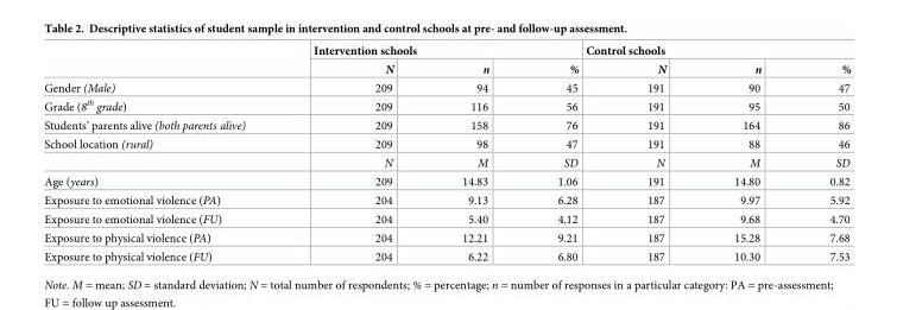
<table><thead><tr><td rowspan="2"></td><td colspan="3">Intervention schools</td><td colspan="3">Control schools</td></tr><tr><td>N</td><td>n</td><td>%</td><td>N</td><td>n</td><td>%</td></tr></thead><tbody><tr><td>Gender (Male)</td><td>209</td><td>94</td><td>45</td><td>191</td><td>90</td><td>47</td></tr><tr><td>Grade (8<sup>th</sup> grade)</td><td>209</td><td>116</td><td>56</td><td>191</td><td>95</td><td>50</td></tr><tr><td>Students’ parents alive (both parents alive)</td><td>209</td><td>158</td><td>76</td><td>191</td><td>164</td><td>86</td></tr><tr><td rowspan="2">School location (rural)</td><td>209</td><td>98</td><td>47</td><td>191</td><td>88</td><td>46</td></tr><tr><td>N</td><td>M</td><td>SD</td><td>N</td><td>M</td><td>SD</td></tr><tr><td>Age (years)</td><td>209</td><td>14.83</td><td>1.06</td><td>191</td><td>14.80</td><td>0.82</td></tr><tr><td>Exposure to emotional violence (PA)</td><td>204</td><td>9.13</td><td>6.28</td><td>187</td><td>9.97</td><td>5.92</td></tr><tr><td>Exposure to emotional violence (FU)</td><td>204</td><td>5.40</td><td>4.12</td><td>187</td><td>9.68</td><td>4.70</td></tr><tr><td>Exposure to physical violence (PA)</td><td>204</td><td>12.21</td><td>9.21</td><td>187</td><td>15.28</td><td>7.68</td></tr><tr><td>Exposure to physical violence (FU)</td><td>204</td><td>6.22</td><td>6.80</td><td>187</td><td>10.30</td><td>7.53</td></tr></tbody></table>